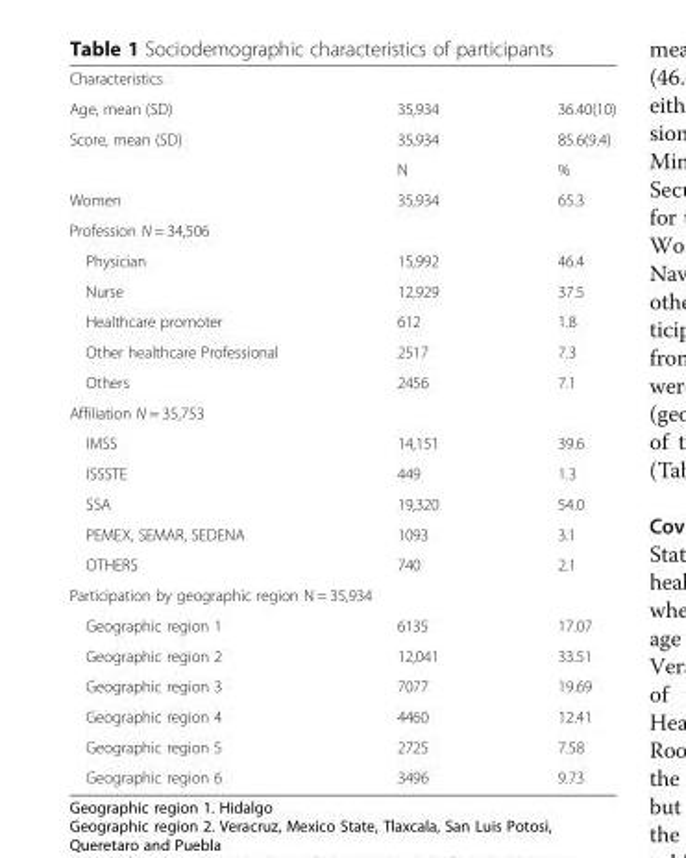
<table><tbody><tr><td colspan="3">Characteristics</td></tr><tr><td>Age, mean (SD)</td><td>35,934</td><td>36.40(10)</td></tr><tr><td rowspan="2">Score, mean (SD)</td><td>35,934</td><td>85.6(9.4)</td></tr><tr><td>N</td><td>%</td></tr><tr><td>Women</td><td>35,934</td><td>65.3</td></tr><tr><td colspan="3">Profession N = 34,506</td></tr><tr><td>Physician</td><td>15,992</td><td>46.4</td></tr><tr><td>Nurse</td><td>12,929</td><td>37.5</td></tr><tr><td>Healthcare promoter</td><td>612</td><td>1.8</td></tr><tr><td>Other healthcare Professional</td><td>2517</td><td>7.3</td></tr><tr><td>Others</td><td>2456</td><td>7.1</td></tr><tr><td colspan="3">Affiliation N = 35,753</td></tr><tr><td>IMSS</td><td>14,151</td><td>39.6</td></tr><tr><td>ISSSTE</td><td>449</td><td>1.3</td></tr><tr><td>SSA</td><td>19,320</td><td>54.0</td></tr><tr><td>PEMEX, SEMAR, SEDENA</td><td>1093</td><td>3.1</td></tr><tr><td>OTHERS</td><td>740</td><td>2.1</td></tr><tr><td colspan="3">Participation by geographic region N = 35,934</td></tr><tr><td>Geographic region 1</td><td>6135</td><td>17.07</td></tr><tr><td>Geographic region 2</td><td>12,041</td><td>33.51</td></tr><tr><td>Geographic region 3</td><td>7077</td><td>19.69</td></tr><tr><td>Geographic region 4</td><td>4460</td><td>12.41</td></tr><tr><td>Geographic region 5</td><td>2725</td><td>7.58</td></tr><tr><td>Geographic region 6</td><td>3496</td><td>9.73</td></tr></tbody></table>